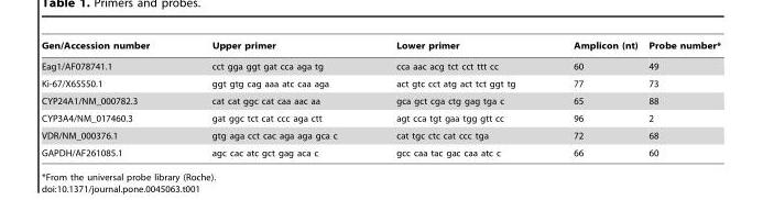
<table><thead><tr><td>Gen/Accession number</td><td>Upper primer</td><td>Lower primer</td><td>Amplicon (nt)</td><td>Probe number*</td></tr></thead><tbody><tr><td>Eag1/AF078741.1</td><td>cct gga ggt gat cca aga tg</td><td>cca aac acg tct cct ttt cc</td><td>60</td><td>49</td></tr><tr><td>Ki-67/X65550.1</td><td>ggt gtg cag aaa atc caa aga</td><td>act gtc cct atg act tct ggt tg</td><td>77</td><td>73</td></tr><tr><td>CYP24A1/NM_000782.3</td><td>cat cat ggc cat caa aac aa</td><td>gca gct cga ctg gag tga c</td><td>65</td><td>88</td></tr><tr><td>CYP3A4/NM_017460.3</td><td>gat ggc tct cat ccc aga ctt</td><td>agt cca tgt gaa tgg gtt cc</td><td>96</td><td>2</td></tr><tr><td>VDR/NM_000376.1</td><td>gtg aga cct cac aga aga gca c</td><td>cat tgc ctc cat ccc tga</td><td>72</td><td>68</td></tr><tr><td>GAPDH/AF261085.1</td><td>agc cac atc gct gag aca c</td><td>gcc caa tac gac caa atc c</td><td>66</td><td>60</td></tr></tbody></table>